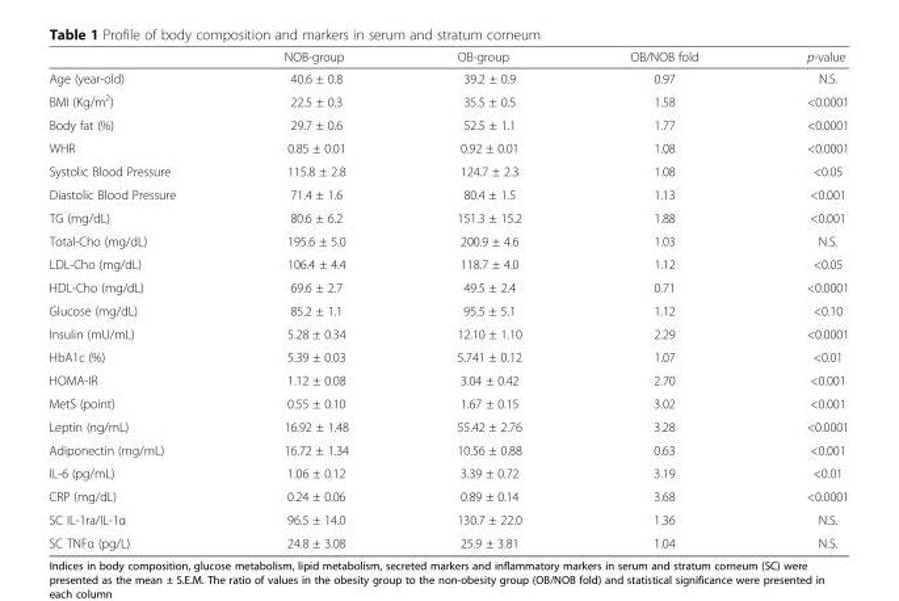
<table><thead><tr><td></td><td>NOB-group</td><td>OB-group</td><td>OB/NOB fold</td><td>p-value</td></tr></thead><tbody><tr><td>Age (year-old)</td><td>40.6 ± 0.8</td><td>39.2 ± 0.9</td><td>0.97</td><td>N.S.</td></tr><tr><td>BMI (Kg/m<sup>2</sup>)</td><td>22.5 ± 0.3</td><td>35.5 ± 0.5</td><td>1.58</td><td>&lt;0.0001</td></tr><tr><td>Body fat (%)</td><td>29.7 ± 0.6</td><td>52.5 ± 1.1</td><td>1.77</td><td>&lt;0.0001</td></tr><tr><td>WHR</td><td>0.85 ± 0.01</td><td>0.92 ± 0.01</td><td>1.08</td><td>&lt;0.0001</td></tr><tr><td>Systolic Blood Pressure</td><td>115.8 ± 2.8</td><td>124.7 ± 2.3</td><td>1.08</td><td>&lt;0.05</td></tr><tr><td>Diastolic Blood Pressure</td><td>71.4 ± 1.6</td><td>80.4 ± 1.5</td><td>1.13</td><td>&lt;0.001</td></tr><tr><td>TG (mg/dL)</td><td>80.6 ± 6.2</td><td>151.3 ± 15.2</td><td>1.88</td><td>&lt;0.001</td></tr><tr><td>Total-Cho (mg/dL)</td><td>195.6 ± 5.0</td><td>200.9 ± 4.6</td><td>1.03</td><td>N.S.</td></tr><tr><td>LDL-Cho (mg/dL)</td><td>106.4 ± 4.4</td><td>118.7 ± 4.0</td><td>1.12</td><td>&lt;0.05</td></tr><tr><td>HDL-Cho (mg/dL)</td><td>69.6 ± 2.7</td><td>49.5 ± 2.4</td><td>0.71</td><td>&lt;0.0001</td></tr><tr><td>Glucose (mg/dL)</td><td>85.2 ± 1.1</td><td>95.5 ± 5.1</td><td>1.12</td><td>&lt;0.10</td></tr><tr><td>Insulin (mU/mL)</td><td>5.28 ± 0.34</td><td>12.10 ± 1.10</td><td>2.29</td><td>&lt;0.0001</td></tr><tr><td>HbA1c (%)</td><td>5.39 ± 0.03</td><td>5.741 ± 0.12</td><td>1.07</td><td>&lt;0.01</td></tr><tr><td>HOMA-IR</td><td>1.12 ± 0.08</td><td>3.04 ± 0.42</td><td>2.70</td><td>&lt;0.001</td></tr><tr><td>MetS (point)</td><td>0.55 ± 0.10</td><td>1.67 ± 0.15</td><td>3.02</td><td>&lt;0.001</td></tr><tr><td>Leptin (ng/mL)</td><td>16.92 ± 1.48</td><td>55.42 ± 2.76</td><td>3.28</td><td>&lt;0.0001</td></tr><tr><td>Adiponectin (mg/mL)</td><td>16.72 ± 1.34</td><td>10.56 ± 0.88</td><td>0.63</td><td>&lt;0.001</td></tr><tr><td>IL-6 (pg/mL)</td><td>1.06 ± 0.12</td><td>3.39 ± 0.72</td><td>3.19</td><td>&lt;0.01</td></tr><tr><td>CRP (mg/dL)</td><td>0.24 ± 0.06</td><td>0.89 ± 0.14</td><td>3.68</td><td>&lt;0.0001</td></tr><tr><td>SC IL-1ra/IL-1α</td><td>96.5 ± 14.0</td><td>130.7 ± 22.0</td><td>1.36</td><td>N.S.</td></tr><tr><td>SC TNFα (pg/L)</td><td>24.8 ± 3.08</td><td>25.9 ± 3.81</td><td>1.04</td><td>N.S.</td></tr></tbody></table>